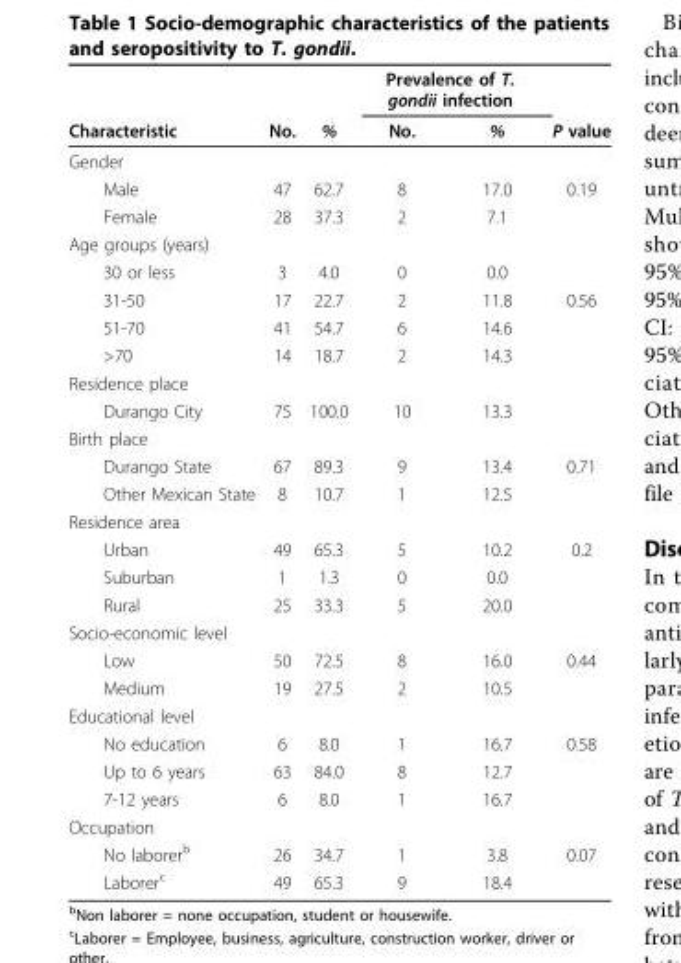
<table><thead><tr><td rowspan="2">Characteristic</td><td rowspan="2">No.</td><td rowspan="2">%</td><td colspan="2">Prevalence of T. gondii infection</td><td rowspan="2">P value</td></tr><tr><td>No.</td><td>%</td></tr></thead><tbody><tr><td colspan="6">Gender</td></tr><tr><td>Male</td><td>47</td><td>62.7</td><td>8</td><td>17.0</td><td>0.19</td></tr><tr><td>Female</td><td>28</td><td>37.3</td><td>2</td><td>7.1</td><td></td></tr><tr><td colspan="6">Age groups (years)</td></tr><tr><td>30 or less</td><td>3</td><td>4.0</td><td>0</td><td>0.0</td><td></td></tr><tr><td>31-50</td><td>17</td><td>22.7</td><td>2</td><td>11.8</td><td>0.56</td></tr><tr><td>51-70</td><td>41</td><td>54.7</td><td>6</td><td>14.6</td><td></td></tr><tr><td>&gt;70</td><td>14</td><td>18.7</td><td>2</td><td>14.3</td><td></td></tr><tr><td colspan="6">Residence place</td></tr><tr><td>Durango City</td><td>75</td><td>100.0</td><td>10</td><td>13.3</td><td></td></tr><tr><td colspan="6">Birth place</td></tr><tr><td>Durango State</td><td>67</td><td>89.3</td><td>9</td><td>13.4</td><td>0.71</td></tr><tr><td>Other Mexican State</td><td>8</td><td>10.7</td><td>1</td><td>12.5</td><td></td></tr><tr><td colspan="6">Residence area</td></tr><tr><td>Urban</td><td>49</td><td>65.3</td><td>5</td><td>10.2</td><td>0.2</td></tr><tr><td>Suburban</td><td>1</td><td>1.3</td><td>0</td><td>0.0</td><td></td></tr><tr><td>Rural</td><td>25</td><td>33.3</td><td>5</td><td>20.0</td><td></td></tr><tr><td colspan="6">Socio-economic level</td></tr><tr><td>Low</td><td>50</td><td>72.5</td><td>8</td><td>16.0</td><td>0.44</td></tr><tr><td>Medium</td><td>19</td><td>27.5</td><td>2</td><td>10.5</td><td></td></tr><tr><td colspan="6">Educational level</td></tr><tr><td>No education</td><td>6</td><td>8.0</td><td>1</td><td>16.7</td><td>0.58</td></tr><tr><td>Up to 6 years</td><td>63</td><td>84.0</td><td>8</td><td>12.7</td><td></td></tr><tr><td>7-12 years</td><td>6</td><td>8.0</td><td>1</td><td>16.7</td><td></td></tr><tr><td colspan="6">Occupation</td></tr><tr><td>No laborer<sup>b</sup></td><td>26</td><td>34.7</td><td>1</td><td>3.8</td><td>0.07</td></tr><tr><td>Laborer<sup>c</sup></td><td>49</td><td>65.3</td><td>9</td><td>18.4</td><td></td></tr></tbody></table>